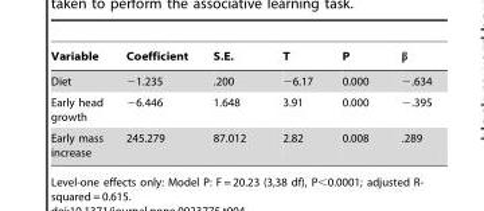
<table><thead><tr><td>Variable</td><td>Coefficient</td><td>S.E.</td><td>T</td><td>P</td><td>β</td></tr></thead><tbody><tr><td>Diet</td><td>−1.235</td><td>.200</td><td>−6.17</td><td>0.000</td><td>−.634</td></tr><tr><td>Early head growth</td><td>−6.446</td><td>1.648</td><td>3.91</td><td>0.000</td><td>−.395</td></tr><tr><td>Early mass increase</td><td>245.279</td><td>87.012</td><td>2.82</td><td>0.008</td><td>.289</td></tr></tbody></table>